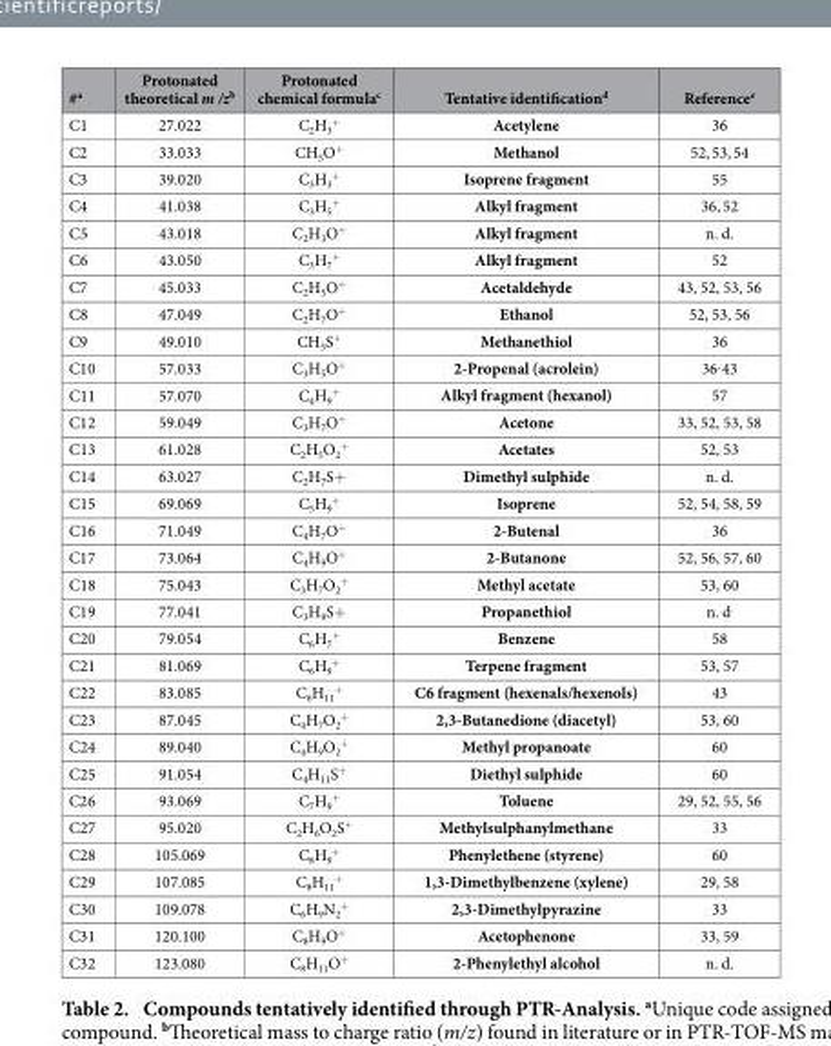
<table><thead><tr><td>#<sup>a</sup></td><td>Protonated theoretical m /z<sup>b</sup></td><td>Protonated chemical formula<sup>c</sup></td><td>Tentative identification<sup>d</sup></td><td>Reference<sup>e</sup></td></tr></thead><tbody><tr><td>C1</td><td>27.022</td><td>C<sub>2</sub>H<sub>3</sub> <sup>+</sup></td><td>Acetylene</td><td>36</td></tr><tr><td>C2</td><td>33.033</td><td>CH<sub>5</sub>O<sup>+</sup></td><td>Methanol</td><td>52, 53, 54</td></tr><tr><td>C3</td><td>39.020</td><td>C<sub>3</sub>H<sub>3</sub> <sup>+</sup></td><td>Isoprene fragment</td><td>55</td></tr><tr><td>C4</td><td>41.038</td><td>C<sub>3</sub>H<sub>5</sub> <sup>+</sup></td><td>Alkyl fragment</td><td>36, 52</td></tr><tr><td>C5</td><td>43.018</td><td>C<sub>2</sub>H<sub>3</sub>O<sup>+</sup></td><td>Alkyl fragment</td><td>n. d.</td></tr><tr><td>C6</td><td>43.050</td><td>C<sub>3</sub>H<sub>7</sub> <sup>+</sup></td><td>Alkyl fragment</td><td>52</td></tr><tr><td>C7</td><td>45.033</td><td>C<sub>2</sub>H<sub>5</sub>O<sup>+</sup></td><td>Acetaldehyde</td><td>43, 52, 53, 56</td></tr><tr><td>C8</td><td>47.049</td><td>C<sub>2</sub>H<sub>7</sub>O<sup>+</sup></td><td>Ethanol</td><td>52, 53, 56</td></tr><tr><td>C9</td><td>49.010</td><td>CH<sub>5</sub>S<sup>+</sup></td><td>Methanethiol</td><td>36</td></tr><tr><td>C10</td><td>57.033</td><td>C<sub>3</sub>H<sub>5</sub>O<sup>+</sup></td><td>2-Propenal (acrolein)</td><td>36, 43</td></tr><tr><td>C11</td><td>57.070</td><td>C<sub>4</sub>H<sub>9</sub> <sup>+</sup></td><td>Alkyl fragment (hexanol)</td><td>57</td></tr><tr><td>C12</td><td>59.049</td><td>C<sub>3</sub>H<sub>7</sub>O<sup>+</sup></td><td>Acetone</td><td>33, 52, 53, 58</td></tr><tr><td>C13</td><td>61.028</td><td>C<sub>2</sub>H<sub>5</sub>O<sub>2</sub> <sup>+</sup></td><td>Acetates</td><td>52, 53</td></tr><tr><td>C14</td><td>63.027</td><td>C<sub>2</sub>H<sub>7</sub>S+</td><td>Dimethyl sulphide</td><td>n. d.</td></tr><tr><td>C15</td><td>69.069</td><td>C<sub>5</sub>H<sub>9</sub> <sup>+</sup></td><td>Isoprene</td><td>52, 54, 58, 59</td></tr><tr><td>C16</td><td>71.049</td><td>C<sub>4</sub>H<sub>7</sub>O<sup>+</sup></td><td>2-Butenal</td><td>36</td></tr><tr><td>C17</td><td>73.064</td><td>C<sub>4</sub>H<sub>9</sub>O<sup>+</sup></td><td>2-Butanone</td><td>52, 56, 57, 60</td></tr><tr><td>C18</td><td>75.043</td><td>C<sub>3</sub>H<sub>7</sub>O<sub>2</sub> <sup>+</sup></td><td>Methyl acetate</td><td>53, 60</td></tr><tr><td>C19</td><td>77.041</td><td>C<sub>3</sub>H<sub>9</sub>S+</td><td>Propanethiol</td><td>n. d.</td></tr><tr><td>C20</td><td>79.054</td><td>C<sub>6</sub>H<sub>7</sub> <sup>+</sup></td><td>Benzene</td><td>58</td></tr><tr><td>C21</td><td>81.069</td><td>C<sub>6</sub>H<sub>9</sub> <sup>+</sup></td><td>Terpene fragment</td><td>53, 57</td></tr><tr><td>C22</td><td>83.085</td><td>C<sub>6</sub>H<sub>11</sub> <sup>+</sup></td><td>C6 fragment (hexenals/hexenols)</td><td>43</td></tr><tr><td>C23</td><td>87.045</td><td>C<sub>4</sub>H<sub>7</sub>O<sub>2</sub> <sup>+</sup></td><td>2,3-Butanedione (diacetyl)</td><td>53, 60</td></tr><tr><td>C24</td><td>89.040</td><td>C<sub>4</sub>H<sub>9</sub>O<sub>2</sub> <sup>+</sup></td><td>Methyl propanoate</td><td>60</td></tr><tr><td>C25</td><td>91.054</td><td>C<sub>4</sub>H<sub>11</sub>S<sup>+</sup></td><td>Diethyl sulphide</td><td>60</td></tr><tr><td>C26</td><td>93.069</td><td>C<sub>7</sub>H<sub>9</sub> <sup>+</sup></td><td>Toluene</td><td>29, 52, 55, 56</td></tr><tr><td>C27</td><td>95.020</td><td>C<sub>2</sub>H<sub>6</sub>O<sub>2</sub>S<sup>+</sup></td><td>Methylsulphanylmethane</td><td>33</td></tr><tr><td>C28</td><td>105.069</td><td>C<sub>8</sub>H<sub>9</sub> <sup>+</sup></td><td>Phenylethene (styrene)</td><td>60</td></tr><tr><td>C29</td><td>107.085</td><td>C<sub>8</sub>H<sub>11</sub> <sup>+</sup></td><td>1,3-Dimethylbenzene (xylene)</td><td>29, 58</td></tr><tr><td>C30</td><td>109.078</td><td>C<sub>6</sub>H<sub>9</sub>N<sub>2</sub> <sup>+</sup></td><td>2,3-Dimethylpyrazine</td><td>33</td></tr><tr><td>C31</td><td>120.100</td><td>C<sub>8</sub>H<sub>9</sub>O<sup>+</sup></td><td>Acetophenone</td><td>33, 59</td></tr><tr><td>C32</td><td>123.080</td><td>C<sub>8</sub>H<sub>11</sub>O<sup>+</sup></td><td>2-Phenylethyl alcohol</td><td>n. d.</td></tr></tbody></table>